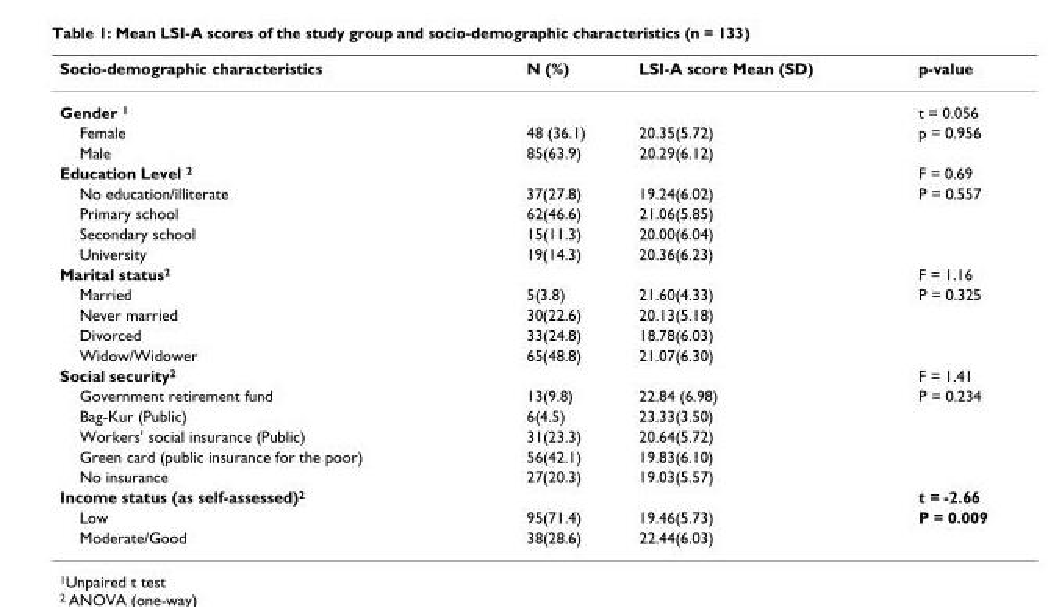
<table><thead><tr><td>Socio-demographic characteristics</td><td>N (%)</td><td>LSI-A score Mean (SD)</td><td>p-value</td></tr></thead><tbody><tr><td>Gender <sup>1</sup></td><td></td><td></td><td>t = 0.056</td></tr><tr><td>Female</td><td>48 (36.1)</td><td>20.35(5.72)</td><td>p = 0.956</td></tr><tr><td>Male</td><td>85(63.9)</td><td>20.29(6.12)</td><td></td></tr><tr><td>Education Level <sup>2</sup></td><td></td><td></td><td>F = 0.69</td></tr><tr><td>No education/illiterate</td><td>37(27.8)</td><td>19.24(6.02)</td><td>P = 0.557</td></tr><tr><td>Primary school</td><td>62(46.6)</td><td>21.06(5.85)</td><td></td></tr><tr><td>Secondary school</td><td>15(11.3)</td><td>20.00(6.04)</td><td></td></tr><tr><td>University</td><td>19(14.3)</td><td>20.36(6.23)</td><td></td></tr><tr><td>Marital status<sup>2</sup></td><td></td><td></td><td>F = 1.16</td></tr><tr><td>Married</td><td>5(3.8)</td><td>21.60(4.33)</td><td>P = 0.325</td></tr><tr><td>Never married</td><td>30(22.6)</td><td>20.13(5.18)</td><td></td></tr><tr><td>Divorced</td><td>33(24.8)</td><td>18.78(6.03)</td><td></td></tr><tr><td>Widow/Widower</td><td>65(48.8)</td><td>21.07(6.30)</td><td></td></tr><tr><td>Social security<sup>2</sup></td><td></td><td></td><td>F = 1.41</td></tr><tr><td>Government retirement fund</td><td>13(9.8)</td><td>22.84 (6.98)</td><td>P = 0.234</td></tr><tr><td>Bag-Kur (Public)</td><td>6(4.5)</td><td>23.33(3.50)</td><td></td></tr><tr><td>Workers&#x27; social insurance (Public)</td><td>31(23.3)</td><td>20.64(5.72)</td><td></td></tr><tr><td>Green card (public insurance for the poor)</td><td>56(42.1)</td><td>19.83(6.10)</td><td></td></tr><tr><td>No insurance</td><td>27(20.3)</td><td>19.03(5.57)</td><td></td></tr><tr><td>Income status (as self-assessed)<sup>2</sup></td><td></td><td></td><td>t = -2.66</td></tr><tr><td>Low</td><td>95(71.4)</td><td>19.46(5.73)</td><td>P = 0.009</td></tr><tr><td>Moderate/Good</td><td>38(28.6)</td><td>22.44(6.03)</td><td></td></tr></tbody></table>